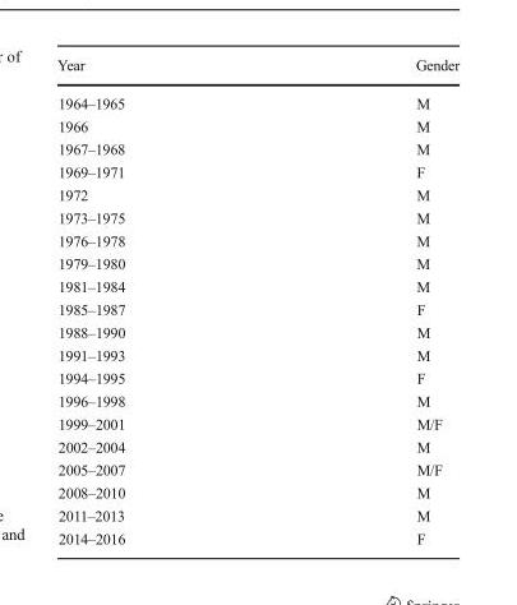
<table><thead><tr><td>Year</td><td>Gender</td></tr></thead><tbody><tr><td>1964–1965</td><td>M</td></tr><tr><td>1966</td><td>M</td></tr><tr><td>1967–1968</td><td>M</td></tr><tr><td>1969–1971</td><td>F</td></tr><tr><td>1972</td><td>M</td></tr><tr><td>1973–1975</td><td>M</td></tr><tr><td>1976–1978</td><td>M</td></tr><tr><td>1979–1980</td><td>M</td></tr><tr><td>1981–1984</td><td>M</td></tr><tr><td>1985–1987</td><td>F</td></tr><tr><td>1988–1990</td><td>M</td></tr><tr><td>1991–1993</td><td>M</td></tr><tr><td>1994–1995</td><td>F</td></tr><tr><td>1996–1998</td><td>M</td></tr><tr><td>1999–2001</td><td>M/F</td></tr><tr><td>2002–2004</td><td>M</td></tr><tr><td>2005–2007</td><td>M/F</td></tr><tr><td>2008–2010</td><td>M</td></tr><tr><td>2011–2013</td><td>M</td></tr><tr><td>2014–2016</td><td>F</td></tr></tbody></table>